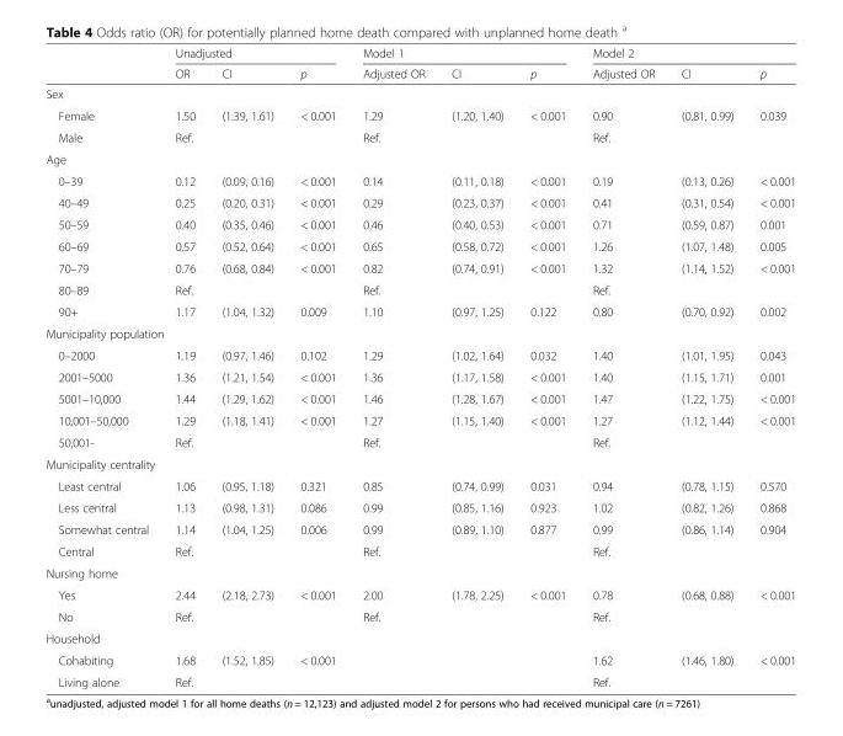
<table><thead><tr><td rowspan="2"></td><td colspan="3">Unadjusted</td><td colspan="3">Model 1</td><td colspan="3">Model 2</td></tr><tr><td>OR</td><td>CI</td><td>p</td><td>Adjusted OR</td><td>CI</td><td>p</td><td>Adjusted OR</td><td>CI</td><td>p</td></tr></thead><tbody><tr><td colspan="10">Sex</td></tr><tr><td>Female</td><td>1.50</td><td>(1.39, 1.61)</td><td>&lt; 0.001</td><td>1.29</td><td>(1.20, 1.40)</td><td>&lt; 0.001</td><td>0.90</td><td>(0.81, 0.99)</td><td>0.039</td></tr><tr><td>Male</td><td>Ref.</td><td></td><td></td><td>Ref.</td><td></td><td></td><td>Ref.</td><td></td><td></td></tr><tr><td colspan="10">Age</td></tr><tr><td>0–39</td><td>0.12</td><td>(0.09, 0.16)</td><td>&lt; 0.001</td><td>0.14</td><td>(0.11, 0.18)</td><td>&lt; 0.001</td><td>0.19</td><td>(0.13, 0.26)</td><td>&lt; 0.001</td></tr><tr><td>40–49</td><td>0.25</td><td>(0.20, 0.31)</td><td>&lt; 0.001</td><td>0.29</td><td>(0.23, 0.37)</td><td>&lt; 0.001</td><td>0.41</td><td>(0.31, 0.54)</td><td>&lt; 0.001</td></tr><tr><td>50–59</td><td>0.40</td><td>(0.35, 0.46)</td><td>&lt; 0.001</td><td>0.46</td><td>(0.40, 0.53)</td><td>&lt; 0.001</td><td>0.71</td><td>(0.59, 0.87)</td><td>0.001</td></tr><tr><td>60–69</td><td>0.57</td><td>(0.52, 0.64)</td><td>&lt; 0.001</td><td>0.65</td><td>(0.58, 0.72)</td><td>&lt; 0.001</td><td>1.26</td><td>(1.07, 1.48)</td><td>0.005</td></tr><tr><td>70–79</td><td>0.76</td><td>(0.68, 0.84)</td><td>&lt; 0.001</td><td>0.82</td><td>(0.74, 0.91)</td><td>&lt; 0.001</td><td>1.32</td><td>(1.14, 1.52)</td><td>&lt; 0.001</td></tr><tr><td>80–89</td><td>Ref.</td><td></td><td></td><td>Ref.</td><td></td><td></td><td>Ref.</td><td></td><td></td></tr><tr><td>90+</td><td>1.17</td><td>(1.04, 1.32)</td><td>0.009</td><td>1.10</td><td>(0.97, 1.25)</td><td>0.122</td><td>0.80</td><td>(0.70, 0.92)</td><td>0.002</td></tr><tr><td colspan="10">Municipality population</td></tr><tr><td>0–2000</td><td>1.19</td><td>(0.97, 1.46)</td><td>0.102</td><td>1.29</td><td>(1.02, 1.64)</td><td>0.032</td><td>1.40</td><td>(1.01, 1.95)</td><td>0.043</td></tr><tr><td>2001–5000</td><td>1.36</td><td>(1.21, 1.54)</td><td>&lt; 0.001</td><td>1.36</td><td>(1.17, 1.58)</td><td>&lt; 0.001</td><td>1.40</td><td>(1.15, 1.71)</td><td>0.001</td></tr><tr><td>5001–10,000</td><td>1.44</td><td>(1.29, 1.62)</td><td>&lt; 0.001</td><td>1.46</td><td>(1.28, 1.67)</td><td>&lt; 0.001</td><td>1.47</td><td>(1.22, 1.75)</td><td>&lt; 0.001</td></tr><tr><td>10,001–50,000</td><td>1.29</td><td>(1.18, 1.41)</td><td>&lt; 0.001</td><td>1.27</td><td>(1.15, 1.40)</td><td>&lt; 0.001</td><td>1.27</td><td>(1.12, 1.44)</td><td>&lt; 0.001</td></tr><tr><td>50,001-</td><td>Ref.</td><td></td><td></td><td>Ref.</td><td></td><td></td><td>Ref.</td><td></td><td></td></tr><tr><td colspan="10">Municipality centrality</td></tr><tr><td>Least central</td><td>1.06</td><td>(0.95, 1.18)</td><td>0.321</td><td>0.85</td><td>(0.74, 0.99)</td><td>0.031</td><td>0.94</td><td>(0.78, 1.15)</td><td>0.570</td></tr><tr><td>Less central</td><td>1.13</td><td>(0.98, 1.31)</td><td>0.086</td><td>0.99</td><td>(0.85, 1.16)</td><td>0.923</td><td>1.02</td><td>(0.82, 1.26)</td><td>0.868</td></tr><tr><td>Somewhat central</td><td>1.14</td><td>(1.04, 1.25)</td><td>0.006</td><td>0.99</td><td>(0.89, 1.10)</td><td>0.877</td><td>0.99</td><td>(0.86, 1.14)</td><td>0.904</td></tr><tr><td>Central</td><td>Ref.</td><td></td><td></td><td>Ref.</td><td></td><td></td><td>Ref.</td><td></td><td></td></tr><tr><td colspan="10">Nursing home</td></tr><tr><td>Yes</td><td>2.44</td><td>(2.18, 2.73)</td><td>&lt; 0.001</td><td>2.00</td><td>(1.78, 2.25)</td><td>&lt; 0.001</td><td>0.78</td><td>(0.68, 0.88)</td><td>&lt; 0.001</td></tr><tr><td>No</td><td>Ref.</td><td></td><td></td><td>Ref.</td><td></td><td></td><td>Ref.</td><td></td><td></td></tr><tr><td colspan="10">Household</td></tr><tr><td>Cohabiting</td><td>1.68</td><td>(1.52, 1.85)</td><td>&lt; 0.001</td><td></td><td></td><td></td><td>1.62</td><td>(1.46, 1.80)</td><td>&lt; 0.001</td></tr><tr><td>Living alone</td><td>Ref.</td><td></td><td></td><td></td><td></td><td></td><td>Ref.</td><td></td><td></td></tr></tbody></table>